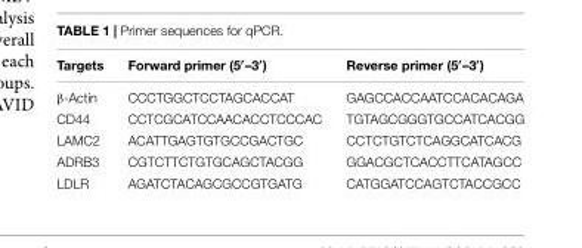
<table><thead><tr><td>Targets</td><td>Forward primer (5′–3′)</td><td>Reverse primer (5′–3′)</td></tr></thead><tbody><tr><td>β-Actin</td><td>CCCTGGCTCCTAGCACCAT</td><td>GAGCCACCAATCCACACAGA</td></tr><tr><td>CD44</td><td>CCTCGCATCCAACACCTCCCAC</td><td>TGTAGCGGGTGCCATCACGG</td></tr><tr><td>LAMC2</td><td>ACATTGAGTGTGCCGACTGC</td><td>CCTCTGTCTCAGGCATCACG</td></tr><tr><td>ADRB3</td><td>CGTCTTCTGTGCAGCTACGG</td><td>GGACGCTCACCTTCATAGCC</td></tr><tr><td>LDLR</td><td>AGATCTACAGCGCCGTGATG</td><td>CATGGATCCAGTCTACCGCC</td></tr></tbody></table>